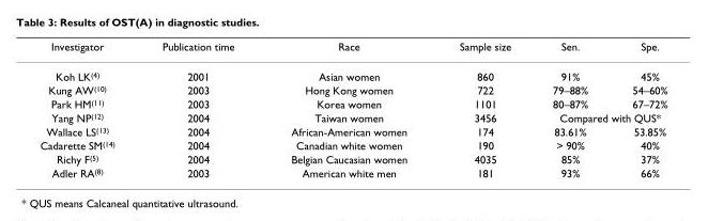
<table><thead><tr><td>Investigator</td><td>Publication time</td><td>Race</td><td>Sample size</td><td>Sen.</td><td>Spe.</td></tr></thead><tbody><tr><td>Koh LK<sup>(4)</sup></td><td>2001</td><td>Asian women</td><td>860</td><td>91%</td><td>45%</td></tr><tr><td>Kung AW<sup>(10)</sup></td><td>2003</td><td>Hong Kong women</td><td>722</td><td>79–88%</td><td>54–60%</td></tr><tr><td>Park HM<sup>(11)</sup></td><td>2003</td><td>Korea women</td><td>1101</td><td>80–87%</td><td>67–72%</td></tr><tr><td>Yang NP<sup>(12)</sup></td><td>2004</td><td>Taiwan women</td><td>3456</td><td colspan="2">Compared with QUS*</td></tr><tr><td>Wallace LS<sup>(13)</sup></td><td>2004</td><td>African-American women</td><td>174</td><td>83.61%</td><td>53.85%</td></tr><tr><td>Cadarette SM<sup>(14)</sup></td><td>2004</td><td>Canadian white women</td><td>190</td><td>&gt; 90%</td><td>40%</td></tr><tr><td>Richy F<sup>(5)</sup></td><td>2004</td><td>Belgian Caucasian women</td><td>4035</td><td>85%</td><td>37%</td></tr><tr><td>Adler RA<sup>(8)</sup></td><td>2003</td><td>American white men</td><td>181</td><td>93%</td><td>66%</td></tr></tbody></table>